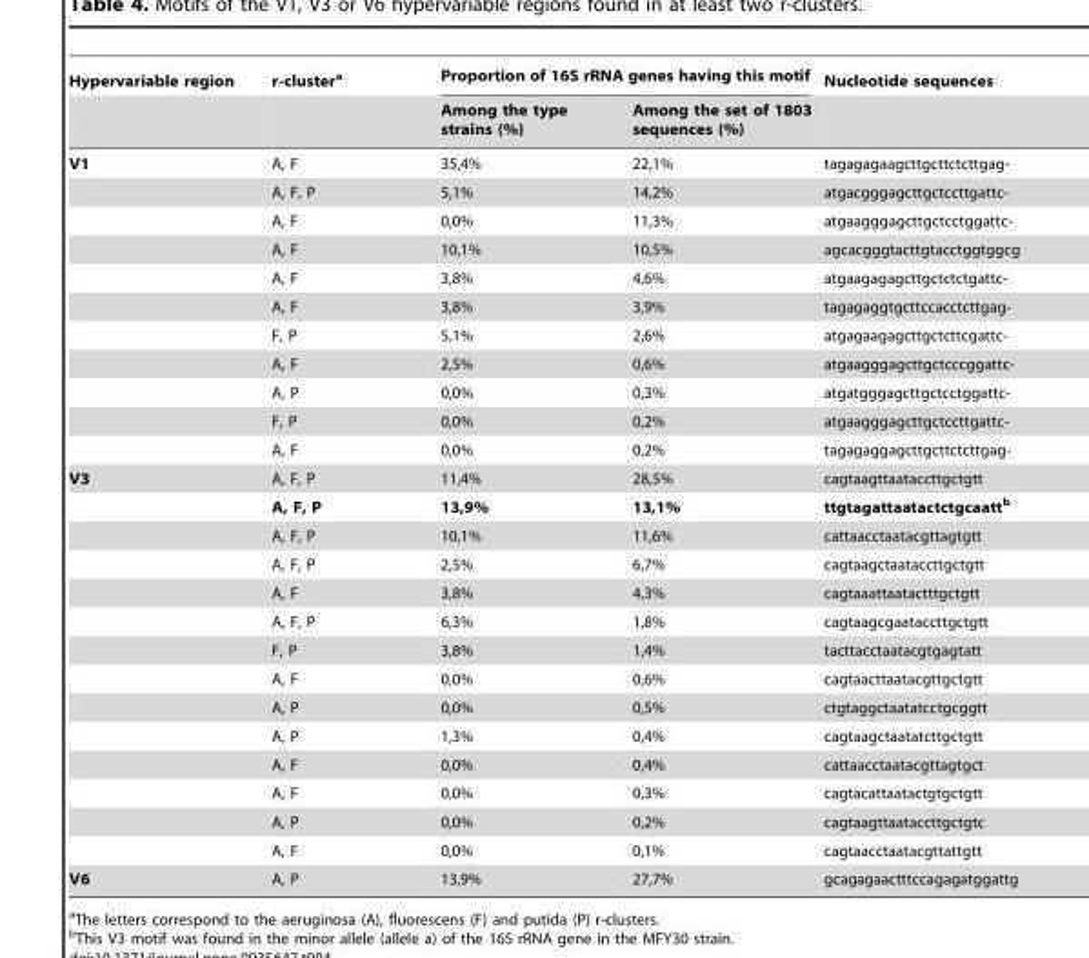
<table><thead><tr><td rowspan="2">Hypervariable region</td><td rowspan="2">r-cluster<sup>a</sup></td><td colspan="2">Proportion of 16S rRNA genes having this motif</td><td rowspan="2">Nucleotide sequences</td></tr><tr><td>Among the type strains (%)</td><td>Among the set of 1803 sequences (%)</td></tr></thead><tbody><tr><td rowspan="11">V1</td><td>A, F</td><td>35,4%</td><td>22,1%</td><td>tagagagaagcttgcttctcttgag-</td></tr><tr><td>A, F, P</td><td>5,1%</td><td>14,2%</td><td>atgacgggagcttgctccttgattc-</td></tr><tr><td>A, F</td><td>0,0%</td><td>11,3%</td><td>atgaagggagcttgctcctggattc-</td></tr><tr><td>A, F</td><td>10,1%</td><td>10,5%</td><td>agcacgggtacttgtacctggtggcg</td></tr><tr><td>A, F</td><td>3,8%</td><td>4,6%</td><td>atgaagagagcttgctctctgattc-</td></tr><tr><td>A, F</td><td>3,8%</td><td>3,9%</td><td>tagagaggtgcttccacctcttgag-</td></tr><tr><td>F, P</td><td>5,1%</td><td>2,6%</td><td>atgagaagagcttgctcttcgattc-</td></tr><tr><td>A, F</td><td>2,5%</td><td>0,6%</td><td>atgaagggagcttgctcccggattc-</td></tr><tr><td>A, P</td><td>0,0%</td><td>0,3%</td><td>atgatgggagcttgctcctggattc-</td></tr><tr><td>F, P</td><td>0,0%</td><td>0,2%</td><td>atgaagggagcttgctccttgattc-</td></tr><tr><td>A, F</td><td>0,0%</td><td>0,2%</td><td>tagagaggagcttgcttctcttgag-</td></tr><tr><td rowspan="14">V3</td><td>A, F, P</td><td>11,4%</td><td>28,5%</td><td>cagtaagttaataccttgctgtt</td></tr><tr><td>A, F, P</td><td>13,9%</td><td>13,1%</td><td>ttgtagattaatactctgcaattb</td></tr><tr><td>A, F, P</td><td>10,1%</td><td>11,6%</td><td>cattaacctaatacgttagtgtt</td></tr><tr><td>A, F, P</td><td>2,5%</td><td>6,7%</td><td>cagtaagctaataccttgctgtt</td></tr><tr><td>A, F</td><td>3,8%</td><td>4,3%</td><td>cagtaaattaatactttgctgtt</td></tr><tr><td>A, F, P</td><td>6,3%</td><td>1,8%</td><td>cagtaagcgaataccttgctgtt</td></tr><tr><td>F, P</td><td>3,8%</td><td>1,4%</td><td>tacttacctaatacgtgagtatt</td></tr><tr><td>A, F</td><td>0,0%</td><td>0,6%</td><td>cagtaacttaatacgttgctgtt</td></tr><tr><td>A, P</td><td>0,0%</td><td>0,5%</td><td>ctgtaggctaatatcctgcggtt</td></tr><tr><td>A, P</td><td>1,3%</td><td>0,4%</td><td>cagtaagctaatatcttgctgtt</td></tr><tr><td>A, F</td><td>0,0%</td><td>0,4%</td><td>cattaacctaatacgttagtgct</td></tr><tr><td>A, F</td><td>0,0%</td><td>0,3%</td><td>cagtacattaatactgtgctgtt</td></tr><tr><td>A, P</td><td>0,0%</td><td>0,2%</td><td>cagtaagttaataccttgctgtc</td></tr><tr><td>A, F</td><td>0,0%</td><td>0,1%</td><td>cagtaacctaatacgttattgtt</td></tr><tr><td>V6</td><td>A, P</td><td>13,9%</td><td>27,7%</td><td>gcagagaactttccagagatggattg</td></tr></tbody></table>